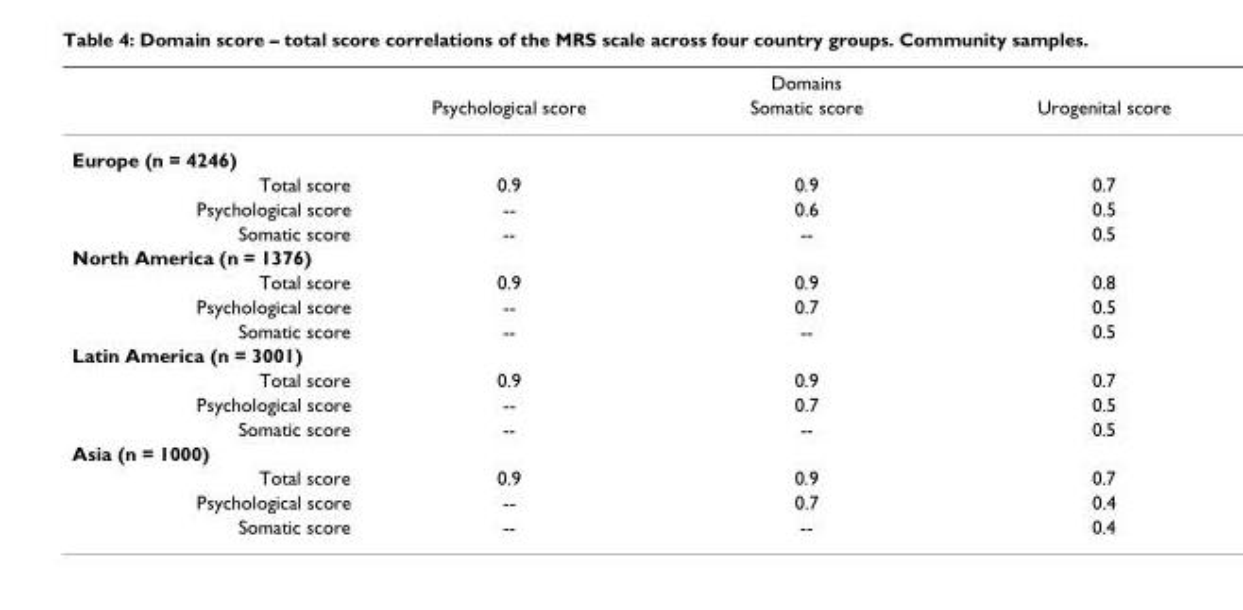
<table><thead><tr><td rowspan="2"></td><td colspan="3">Domains</td></tr><tr><td>Psychological score</td><td>Somatic score</td><td>Urogenital score</td></tr></thead><tbody><tr><td colspan="4">Europe (n = 4246)</td></tr><tr><td>Total score</td><td>0.9</td><td>0.9</td><td>0.7</td></tr><tr><td>Psychological score</td><td>--</td><td>0.6</td><td>0.5</td></tr><tr><td>Somatic score</td><td>--</td><td>--</td><td>0.5</td></tr><tr><td colspan="4">North America (n = 1376)</td></tr><tr><td>Total score</td><td>0.9</td><td>0.9</td><td>0.8</td></tr><tr><td>Psychological score</td><td>--</td><td>0.7</td><td>0.5</td></tr><tr><td>Somatic score</td><td>--</td><td>--</td><td>0.5</td></tr><tr><td colspan="4">Latin America (n = 3001)</td></tr><tr><td>Total score</td><td>0.9</td><td>0.9</td><td>0.7</td></tr><tr><td>Psychological score</td><td>--</td><td>0.7</td><td>0.5</td></tr><tr><td>Somatic score</td><td>--</td><td>--</td><td>0.5</td></tr><tr><td colspan="4">Asia (n = 1000)</td></tr><tr><td>Total score</td><td>0.9</td><td>0.9</td><td>0.7</td></tr><tr><td>Psychological score</td><td>--</td><td>0.7</td><td>0.4</td></tr><tr><td>Somatic score</td><td>--</td><td>--</td><td>0.4</td></tr></tbody></table>